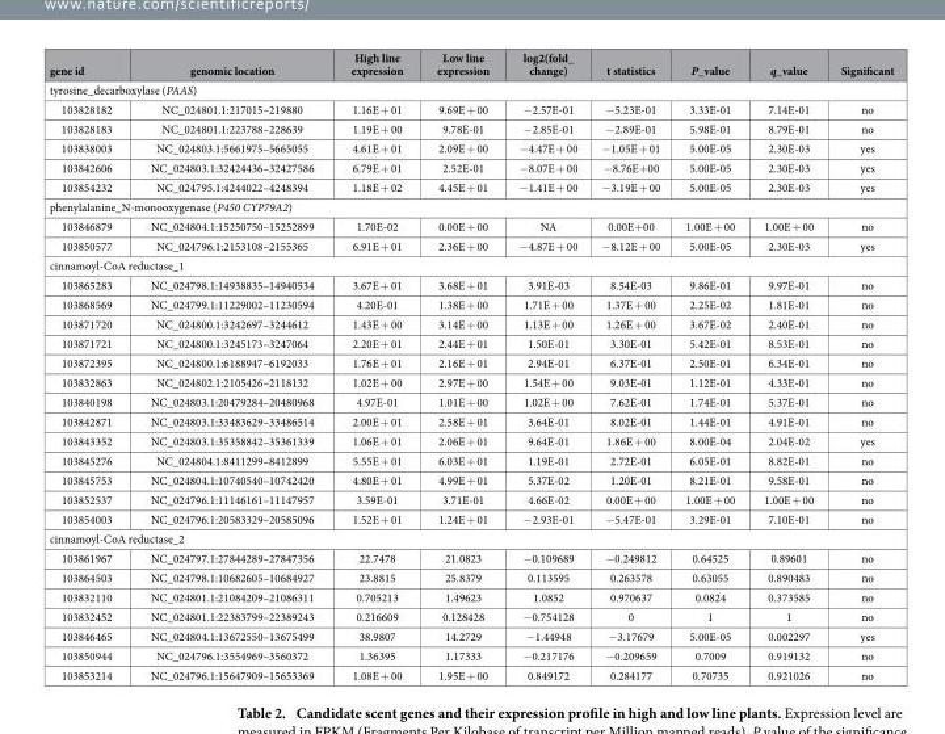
<table><thead><tr><td>gene id</td><td>genomic location</td><td>High line expression</td><td>Low line expression</td><td>log2(fold_ change)</td><td>t statistics</td><td>P_value</td><td>q_value</td><td>Significant</td></tr></thead><tbody><tr><td colspan="9">tyrosine_decarboxylase (PAAS)</td></tr><tr><td>103828182</td><td>NC_024801.1:217015–219880</td><td>1.16E + 01</td><td>9.69E + 00</td><td>− 2.57E-01</td><td>− 5.23E-01</td><td>3.33E-01</td><td>7.14E-01</td><td>no</td></tr><tr><td>103828183</td><td>NC_024801.1:223788–228639</td><td>1.19E + 00</td><td>9.78E-01</td><td>− 2.85E-01</td><td>− 2.89E-01</td><td>5.98E-01</td><td>8.79E-01</td><td>no</td></tr><tr><td>103838003</td><td>NC_024803.1:5661975–5665055</td><td>4.61E + 01</td><td>2.09E + 00</td><td>− 4.47E + 00</td><td>− 1.05E + 01</td><td>5.00E-05</td><td>2.30E-03</td><td>yes</td></tr><tr><td>103842606</td><td>NC_024803.1:32424436–32427586</td><td>6.79E + 01</td><td>2.52E-01</td><td>− 8.07E + 00</td><td>− 8.76E+ 00</td><td>5.00E-05</td><td>2.30E-03</td><td>yes</td></tr><tr><td>103854232</td><td>NC_024795.1:4244022–4248394</td><td>1.18E + 02</td><td>4.45E + 01</td><td>− 1.41E + 00</td><td>− 3.19E + 00</td><td>5.00E-05</td><td>2.30E-03</td><td>yes</td></tr><tr><td colspan="9">phenylalanine_N-monooxygenase (P450 CYP79A2)</td></tr><tr><td>103846879</td><td>NC_024804.1:15250750–15252899</td><td>1.70E-02</td><td>0.00E + 00</td><td>NA</td><td>0.00E+ 00</td><td>1.00E + 00</td><td>1.00E + 00</td><td>no</td></tr><tr><td>103850577</td><td>NC_024796.1:2153108–2155365</td><td>6.91E + 01</td><td>2.36E + 00</td><td>− 4.87E + 00</td><td>− 8.12E + 00</td><td>5.00E-05</td><td>2.30E-03</td><td>yes</td></tr><tr><td colspan="9">cinnamoyl-CoA reductase_1</td></tr><tr><td>103865283</td><td>NC_024798.1:14938835–14940534</td><td>3.67E + 01</td><td>3.68E + 01</td><td>3.91E-03</td><td>8.54E-03</td><td>9.86E-01</td><td>9.97E-01</td><td>no</td></tr><tr><td>103868569</td><td>NC_024799.1:11229002–11230594</td><td>4.20E-01</td><td>1.38E + 00</td><td>1.71E + 00</td><td>1.37E + 00</td><td>2.25E-02</td><td>1.81E-01</td><td>no</td></tr><tr><td>103871720</td><td>NC_024800.1:3242697–3244612</td><td>1.43E + 00</td><td>3.14E + 00</td><td>1.13E + 00</td><td>1.26E + 00</td><td>3.67E-02</td><td>2.40E-01</td><td>no</td></tr><tr><td>103871721</td><td>NC_024800.1:3245173–3247064</td><td>2.20E + 01</td><td>2.44E + 01</td><td>1.50E-01</td><td>3.30E-01</td><td>5.42E-01</td><td>8.53E-01</td><td>no</td></tr><tr><td>103872395</td><td>NC_024800.1:6188947–6192033</td><td>1.76E + 01</td><td>2.16E + 01</td><td>2.94E-01</td><td>6.37E-01</td><td>2.50E-01</td><td>6.34E-01</td><td>no</td></tr><tr><td>103832863</td><td>NC_024802.1:2105426–2118132</td><td>1.02E + 00</td><td>2.97E + 00</td><td>1.54E + 00</td><td>9.03E-01</td><td>1.12E-01</td><td>4.33E-01</td><td>no</td></tr><tr><td>103840198</td><td>NC_024803.1:20479284–20480968</td><td>4.97E-01</td><td>1.01E + 00</td><td>1.02E + 00</td><td>7.62E-01</td><td>1.74E-01</td><td>5.37E-01</td><td>no</td></tr><tr><td>103842871</td><td>NC_024803.1:33483629–33486514</td><td>2.00E + 01</td><td>2.58E + 01</td><td>3.64E-01</td><td>8.02E-01</td><td>1.44E-01</td><td>4.91E-01</td><td>no</td></tr><tr><td>103843352</td><td>NC_024803.1:35358842–35361339</td><td>1.06E + 01</td><td>2.06E + 01</td><td>9.64E-01</td><td>1.86E + 00</td><td>8.00E-04</td><td>2.04E-02</td><td>yes</td></tr><tr><td>103845276</td><td>NC_024804.1:8411299–8412899</td><td>5.55E + 01</td><td>6.03E + 01</td><td>1.19E-01</td><td>2.72E-01</td><td>6.05E-01</td><td>8.82E-01</td><td>no</td></tr><tr><td>103845753</td><td>NC_024804.1:10740540–10742420</td><td>4.80E + 01</td><td>4.99E + 01</td><td>5.37E-02</td><td>1.20E-01</td><td>8.21E-01</td><td>9.58E-01</td><td>no</td></tr><tr><td>103852537</td><td>NC_024796.1:11146161–11147957</td><td>3.59E-01</td><td>3.71E-01</td><td>4.66E-02</td><td>0.00E + 00</td><td>1.00E + 00</td><td>1.00E + 00</td><td>no</td></tr><tr><td>103854003</td><td>NC_024796.1:20583329–20585096</td><td>1.52E + 01</td><td>1.24E + 01</td><td>− 2.93E-01</td><td>− 5.47E-01</td><td>3.29E-01</td><td>7.10E-01</td><td>no</td></tr><tr><td colspan="9">cinnamoyl-CoA reductase_2</td></tr><tr><td>103861967</td><td>NC_024797.1:27844289–27847356</td><td>22.7478</td><td>21.0823</td><td>− 0.109689</td><td>− 0.249812</td><td>0.64525</td><td>0.89601</td><td>no</td></tr><tr><td>103864503</td><td>NC_024798.1:10682605–10684927</td><td>23.8815</td><td>25.8379</td><td>0.113595</td><td>0.263578</td><td>0.63055</td><td>0.890483</td><td>no</td></tr><tr><td>103832110</td><td>NC_024801.1:21084209–21086311</td><td>0.705213</td><td>1.49623</td><td>1.0852</td><td>0.970637</td><td>0.0824</td><td>0.373585</td><td>no</td></tr><tr><td>103832452</td><td>NC_024801.1:22383799–22389243</td><td>0.216609</td><td>0.128428</td><td>− 0.754128</td><td>0</td><td>1</td><td>1</td><td>no</td></tr><tr><td>103846465</td><td>NC_024804.1:13672550–13675499</td><td>38.9807</td><td>14.2729</td><td>− 1.44948</td><td>− 3.17679</td><td>5.00E-05</td><td>0.002297</td><td>yes</td></tr><tr><td>103850944</td><td>NC_024796.1:3554969–3560372</td><td>1.36395</td><td>1.17333</td><td>− 0.217176</td><td>− 0.209659</td><td>0.7009</td><td>0.919132</td><td>no</td></tr><tr><td>103853214</td><td>NC_024796.1:15647909–15653369</td><td>1.08E + 00</td><td>1.95E + 00</td><td>0.849172</td><td>0.284177</td><td>0.70735</td><td>0.921026</td><td>no</td></tr></tbody></table>